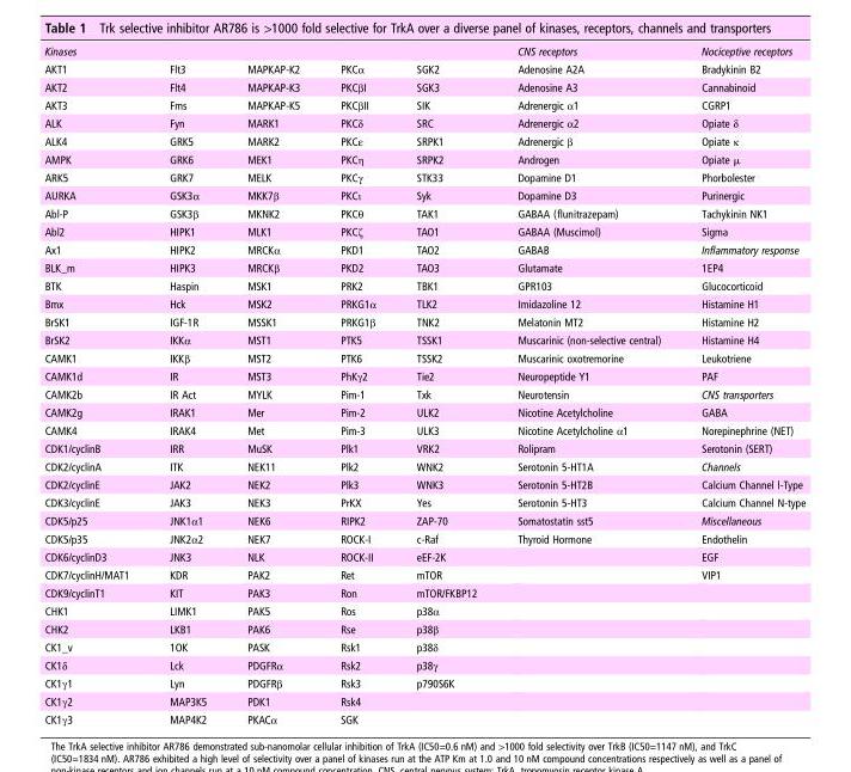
<table><tbody><tr><td>Kinases</td><td></td><td></td><td></td><td></td><td>CNS receptors</td><td>Nociceptive receptors</td></tr><tr><td>AKT1</td><td>Flt3</td><td>MAPKAP-K2</td><td>PKCα</td><td>SGK2</td><td>Adenosine A2A</td><td>Bradykinin B2</td></tr><tr><td>AKT2</td><td>Flt4</td><td>MAPKAP-K3</td><td>PKCβI</td><td>SGK3</td><td>Adenosine A3</td><td>Cannabinoid</td></tr><tr><td>AKT3</td><td>Fms</td><td>MAPKAP-K5</td><td>PKCβII</td><td>SIK</td><td>Adrenergic α1</td><td>CGRP1</td></tr><tr><td>ALK</td><td>Fyn</td><td>MARK1</td><td>PKCδ</td><td>SRC</td><td>Adrenergic α2</td><td>Opiate δ</td></tr><tr><td>ALK4</td><td>GRK5</td><td>MARK2</td><td>PKCε</td><td>SRPK1</td><td>Adrenergic β</td><td>Opiate κ</td></tr><tr><td>AMPK</td><td>GRK6</td><td>MEK1</td><td>PKCη</td><td>SRPK2</td><td>Androgen</td><td>Opiate µ</td></tr><tr><td>ARK5</td><td>GRK7</td><td>MELK</td><td>PKCγ</td><td>STK33</td><td>Dopamine D1</td><td>Phorbolester</td></tr><tr><td>AURKA</td><td>GSK3α</td><td>MKK7β</td><td>PKCι</td><td>Syk</td><td>Dopamine D3</td><td>Purinergic</td></tr><tr><td>Abl-P</td><td>GSK3β</td><td>MKNK2</td><td>PKCθ</td><td>TAK1</td><td>GABAA (flunitrazepam)</td><td>Tachykinin NK1</td></tr><tr><td>Abl2</td><td>HIPK1</td><td>MLK1</td><td>PKCζ</td><td>TAO1</td><td>GABAA (Muscimol)</td><td>Sigma</td></tr><tr><td>Ax1</td><td>HIPK2</td><td>MRCKα</td><td>PKD1</td><td>TAO2</td><td>GABAB</td><td>Inflammatory response</td></tr><tr><td>BLK_m</td><td>HIPK3</td><td>MRCKβ</td><td>PKD2</td><td>TAO3</td><td>Glutamate</td><td>1EP4</td></tr><tr><td>BTK</td><td>Haspin</td><td>MSK1</td><td>PRK2</td><td>TBK1</td><td>GPR103</td><td>Glucocorticoid</td></tr><tr><td>Bmx</td><td>Hck</td><td>MSK2</td><td>PRKG1α</td><td>TLK2</td><td>Imidazoline 12</td><td>Histamine H1</td></tr><tr><td>BrSK1</td><td>IGF-1R</td><td>MSSK1</td><td>PRKG1β</td><td>TNK2</td><td>Melatonin MT2</td><td>Histamine H2</td></tr><tr><td>BrSK2</td><td>IKKα</td><td>MST1</td><td>PTK5</td><td>TSSK1</td><td>Muscarinic (non-selective central)</td><td>Histamine H4</td></tr><tr><td>CAMK1</td><td>IKKβ</td><td>MST2</td><td>PTK6</td><td>TSSK2</td><td>Muscarinic oxotremorine</td><td>Leukotriene</td></tr><tr><td>CAMK1d</td><td>IR</td><td>MST3</td><td>PhKγ2</td><td>Tie2</td><td>Neuropeptide Y1</td><td>PAF</td></tr><tr><td>CAMK2b</td><td>IR Act</td><td>MYLK</td><td>Pim-1</td><td>Txk</td><td>Neurotensin</td><td>CNS transporters</td></tr><tr><td>CAMK2g</td><td>IRAK1</td><td>Mer</td><td>Pim-2</td><td>ULK2</td><td>Nicotine Acetylcholine</td><td>GABA</td></tr><tr><td>CAMK4</td><td>IRAK4</td><td>Met</td><td>Pim-3</td><td>ULK3</td><td>Nicotine Acetylcholine α1</td><td>Norepinephrine (NET)</td></tr><tr><td>CDK1/cyclinB</td><td>IRR</td><td>MuSK</td><td>Plk1</td><td>VRK2</td><td>Rolipram</td><td>Serotonin (SERT)</td></tr><tr><td>CDK2/cyclinA</td><td>ITK</td><td>NEK11</td><td>Plk2</td><td>WNK2</td><td>Serotonin 5-HT1A</td><td>Channels</td></tr><tr><td>CDK2/cyclinE</td><td>JAK2</td><td>NEK2</td><td>Plk3</td><td>WNK3</td><td>Serotonin 5-HT2B</td><td>Calcium Channel l-Type</td></tr><tr><td>CDK3/cyclinE</td><td>JAK3</td><td>NEK3</td><td>PrKX</td><td>Yes</td><td>Serotonin 5-HT3</td><td>Calcium Channel N-type</td></tr><tr><td>CDK5/p25</td><td>JNK1α1</td><td>NEK6</td><td>RIPK2</td><td>ZAP-70</td><td>Somatostatin sst5</td><td>Miscellaneous</td></tr><tr><td>CDK5/p35</td><td>JNK2α2</td><td>NEK7</td><td>ROCK-I</td><td>c-Raf</td><td>Thyroid Hormone</td><td>Endothelin</td></tr><tr><td>CDK6/cyclinD3</td><td>JNK3</td><td>NLK</td><td>ROCK-II</td><td>eEF-2K</td><td></td><td>EGF</td></tr><tr><td>CDK7/cyclinH/MAT1</td><td>KDR</td><td>PAK2</td><td>Ret</td><td>mTOR</td><td></td><td>VIP1</td></tr><tr><td>CDK9/cyclinT1</td><td>KIT</td><td>PAK3</td><td>Ron</td><td>mTOR/FKBP12</td><td></td><td></td></tr><tr><td>CHK1</td><td>LIMK1</td><td>PAK5</td><td>Ros</td><td>p38α</td><td></td><td></td></tr><tr><td>CHK2</td><td>LKB1</td><td>PAK6</td><td>Rse</td><td>p38β</td><td></td><td></td></tr><tr><td>CK1_v</td><td>1OK</td><td>PASK</td><td>Rsk1</td><td>p38δ</td><td></td><td></td></tr><tr><td>CK1δ</td><td>Lck</td><td>PDGFRα</td><td>Rsk2</td><td>p38γ</td><td></td><td></td></tr><tr><td>CK1γ1</td><td>Lyn</td><td>PDGFRβ</td><td>Rsk3</td><td>p790S6K</td><td></td><td></td></tr><tr><td>CK1γ2</td><td>MAP3K5</td><td>PDK1</td><td>Rsk4</td><td></td><td></td><td></td></tr><tr><td>CK1γ3</td><td>MAP4K2</td><td>PKACα</td><td>SGK</td><td></td><td></td><td></td></tr></tbody></table>